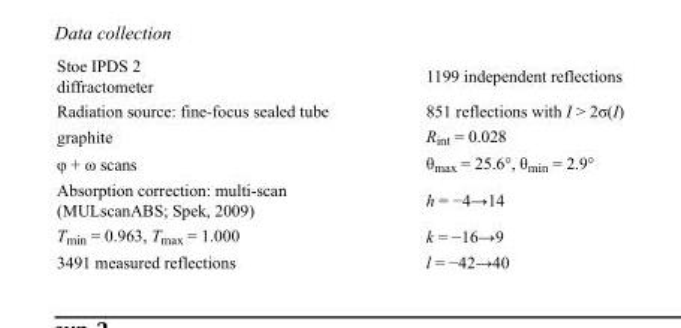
<table><tbody><tr><td>Stoe IPDS 2 diffractometer</td><td>1199 independent reflections</td></tr><tr><td>Radiation source: fine-focus sealed tube</td><td>851 reflections with I &gt; 2σ(I)</td></tr><tr><td>graphite</td><td>R<sub>int</sub> = 0.028</td></tr><tr><td>φ + ω scans</td><td>θ<sub>max</sub> = 25.6°, θ<sub>min</sub> = 2.9°</td></tr><tr><td>Absorption correction: multi-scan (MULscanABS; Spek, 2009)</td><td>h = −4→14</td></tr><tr><td>T<sub>min</sub> = 0.963, T<sub>max</sub> = 1.000</td><td>k = −16→9</td></tr><tr><td>3491 measured reflections</td><td>l = −42→40</td></tr></tbody></table>